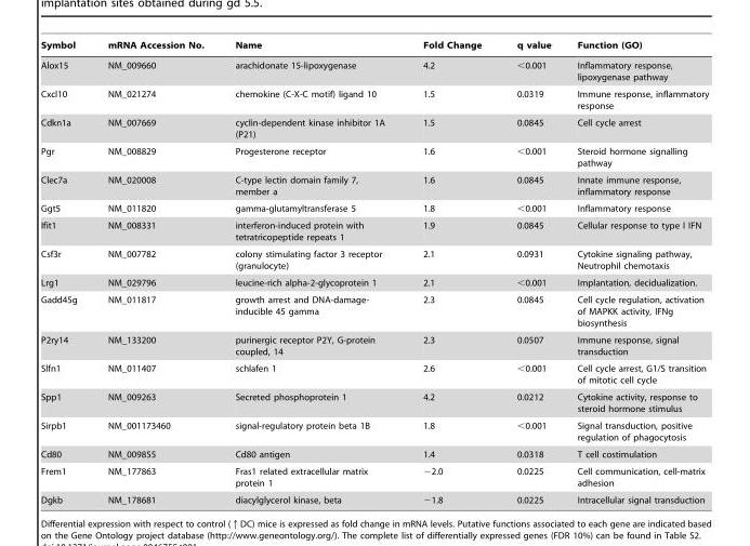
<table><thead><tr><td>Symbol</td><td>mRNA Accession No.</td><td>Name</td><td>Fold Change</td><td>q value</td><td>Function (GO)</td></tr></thead><tbody><tr><td>Alox15</td><td>NM_009660</td><td>arachidonate 15-lipoxygenase</td><td>4.2</td><td>&lt;0.001</td><td>Inflammatory response, lipoxygenase pathway</td></tr><tr><td>Cxcl10</td><td>NM_021274</td><td>chemokine (C-X-C motif) ligand 10</td><td>1.5</td><td>0.0319</td><td>Immune response, inflammatory response</td></tr><tr><td>Cdkn1a</td><td>NM_007669</td><td>cyclin-dependent kinase inhibitor 1A (P21)</td><td>1.5</td><td>0.0845</td><td>Cell cycle arrest</td></tr><tr><td>Pgr</td><td>NM_008829</td><td>Progesterone receptor</td><td>1.6</td><td>&lt;0.001</td><td>Steroid hormone signalling pathway</td></tr><tr><td>Clec7a</td><td>NM_020008</td><td>C-type lectin domain family 7, member a</td><td>1.6</td><td>0.0845</td><td>Innate immune response, inflammatory response</td></tr><tr><td>Ggt5</td><td>NM_011820</td><td>gamma-glutamyltransferase 5</td><td>1.8</td><td>&lt;0.001</td><td>Inflammatory response</td></tr><tr><td>Ifit1</td><td>NM_008331</td><td>interferon-induced protein with tetratricopeptide repeats 1</td><td>1.9</td><td>0.0845</td><td>Cellular response to type I IFN</td></tr><tr><td>Csf3r</td><td>NM_007782</td><td>colony stimulating factor 3 receptor (granulocyte)</td><td>2.1</td><td>0.0931</td><td>Cytokine signaling pathway, Neutrophil chemotaxis</td></tr><tr><td>Lrg1</td><td>NM_029796</td><td>leucine-rich alpha-2-glycoprotein 1</td><td>2.1</td><td>&lt;0.001</td><td>Implantation, decidualization.</td></tr><tr><td>Gadd45g</td><td>NM_011817</td><td>growth arrest and DNA-damage- inducible 45 gamma</td><td>2.3</td><td>0.0845</td><td>Cell cycle regulation, activation of MAPKK activity, IFNg biosynthesis</td></tr><tr><td>P2ry14</td><td>NM_133200</td><td>purinergic receptor P2Y, G-protein coupled, 14</td><td>2.3</td><td>0.0507</td><td>Immune response, signal transduction</td></tr><tr><td>Slfn1</td><td>NM_011407</td><td>schlafen 1</td><td>2.6</td><td>&lt;0.001</td><td>Cell cycle arrest, G1/S transition of mitotic cell cycle</td></tr><tr><td>Spp1</td><td>NM_009263</td><td>Secreted phosphoprotein 1</td><td>4.2</td><td>0.0212</td><td>Cytokine activity, response to steroid hormone stimulus</td></tr><tr><td>Sirpb1</td><td>NM_001173460</td><td>signal-regulatory protein beta 1B</td><td>1.8</td><td>&lt;0.001</td><td>Signal transduction, positive regulation of phagocytosis</td></tr><tr><td>Cd80</td><td>NM_009855</td><td>Cd80 antigen</td><td>1.4</td><td>0.0318</td><td>T cell costimulation</td></tr><tr><td>Frem1</td><td>NM_177863</td><td>Fras1 related extracellular matrix protein 1</td><td>−2.0</td><td>0.0225</td><td>Cell communication, cell-matrix adhesion</td></tr><tr><td>Dgkb</td><td>NM_178681</td><td>diacylglycerol kinase, beta</td><td>−1.8</td><td>0.0225</td><td>Intracellular signal transduction</td></tr></tbody></table>